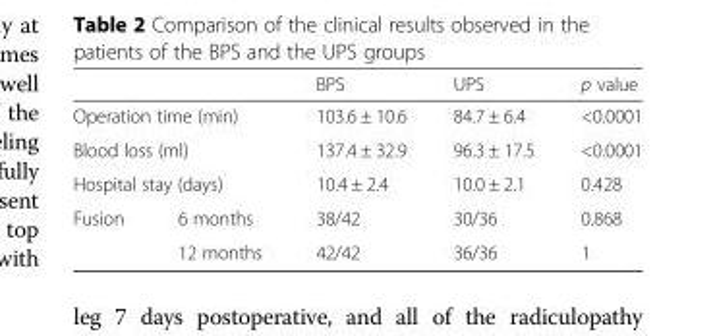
<table><thead><tr><td></td><td></td><td>BPS</td><td>UPS</td><td>p value</td></tr></thead><tbody><tr><td colspan="2">Operation time (min)</td><td>103.6 ± 10.6</td><td>84.7 ± 6.4</td><td>&lt;0.0001</td></tr><tr><td colspan="2">Blood loss (ml)</td><td>137.4 ± 32.9</td><td>96.3 ± 17.5</td><td>&lt;0.0001</td></tr><tr><td colspan="2">Hospital stay (days)</td><td>10.4 ± 2.4</td><td>10.0 ± 2.1</td><td>0.428</td></tr><tr><td rowspan="2">Fusion</td><td>6 months</td><td>38/42</td><td>30/36</td><td>0.868</td></tr><tr><td>12 months</td><td>42/42</td><td>36/36</td><td>1</td></tr></tbody></table>